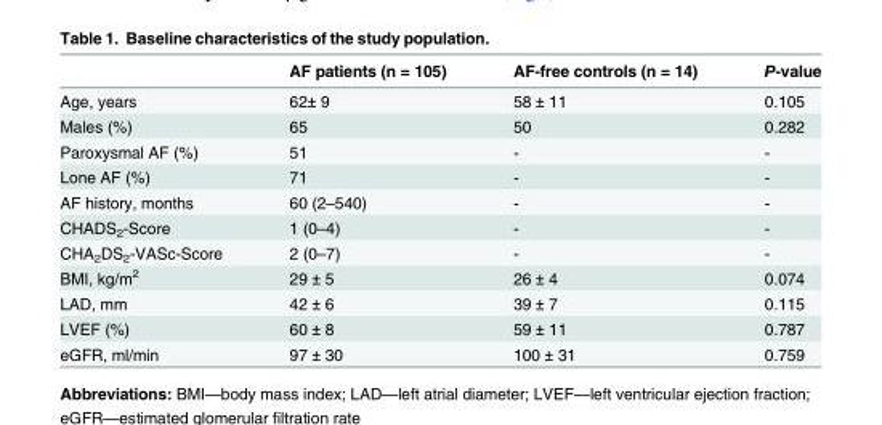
<table><thead><tr><td></td><td>AF patients (n = 105)</td><td>AF-free controls (n = 14)</td><td>P-value</td></tr></thead><tbody><tr><td>Age, years</td><td>62± 9</td><td>58 ± 11</td><td>0.105</td></tr><tr><td>Males (%)</td><td>65</td><td>50</td><td>0.282</td></tr><tr><td>Paroxysmal AF (%)</td><td>51</td><td>-</td><td>-</td></tr><tr><td>Lone AF (%)</td><td>71</td><td>-</td><td>-</td></tr><tr><td>AF history, months</td><td>60 (2–540)</td><td>-</td><td>-</td></tr><tr><td>CHADS<sub>2</sub>-Score</td><td>1 (0–4)</td><td>-</td><td>-</td></tr><tr><td>CHA<sub>2</sub>DS<sub>2</sub>-VASc-Score</td><td>2 (0–7)</td><td>-</td><td>-</td></tr><tr><td>BMI, kg/m<sup>2</sup></td><td>29 ± 5</td><td>26 ± 4</td><td>0.074</td></tr><tr><td>LAD, mm</td><td>42 ± 6</td><td>39 ± 7</td><td>0.115</td></tr><tr><td>LVEF (%)</td><td>60 ± 8</td><td>59 ± 11</td><td>0.787</td></tr><tr><td>eGFR, ml/min</td><td>97 ± 30</td><td>100 ± 31</td><td>0.759</td></tr></tbody></table>